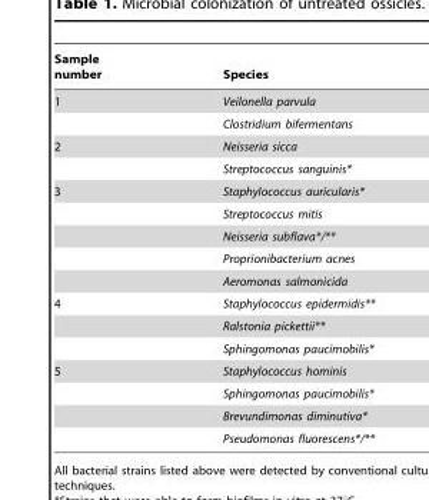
<table><thead><tr><td>Sample number</td><td>Species</td></tr></thead><tbody><tr><td rowspan="2">1</td><td>Veilonella parvula</td></tr><tr><td>Clostridium bifermentans</td></tr><tr><td rowspan="2">2</td><td>Neisseria sicca</td></tr><tr><td>Streptococcus sanguinis*</td></tr><tr><td rowspan="5">3</td><td>Staphylococcus auricularis*</td></tr><tr><td>Streptococcus mitis</td></tr><tr><td>Neisseria subflava*/**</td></tr><tr><td>Proprionibacterium acnes</td></tr><tr><td>Aeromonas salmonicida</td></tr><tr><td rowspan="3">4</td><td>Staphylococcus epidermidis**</td></tr><tr><td>Ralstonia pickettii**</td></tr><tr><td>Sphingomonas paucimobilis*</td></tr><tr><td rowspan="4">5</td><td>Staphylococcus hominis</td></tr><tr><td>Sphingomonas paucimobilis*</td></tr><tr><td>Brevundimonas diminutiva*</td></tr><tr><td>Pseudomonas fluorescens*/**</td></tr></tbody></table>